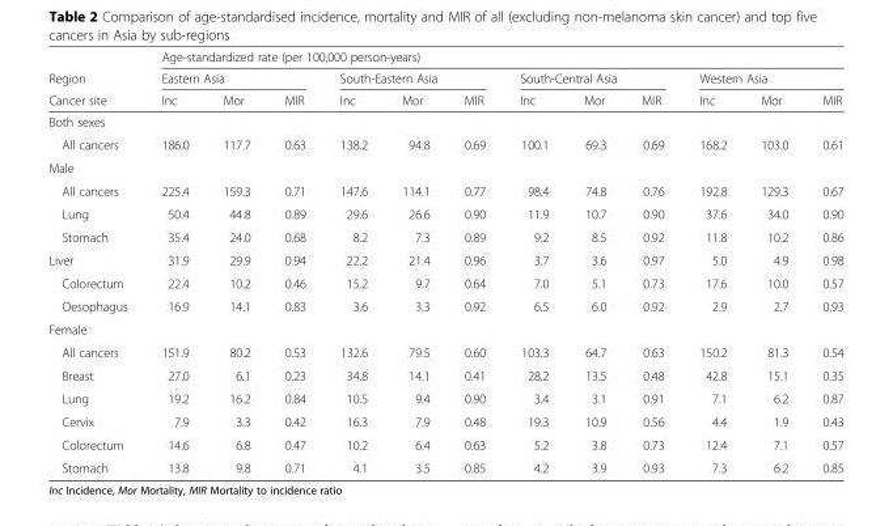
<table><thead><tr><td rowspan="3">Region Cancer site</td><td colspan="12">Age-standardized rate (per 100,000 person-years)</td></tr><tr><td colspan="3">Eastern Asia</td><td colspan="3">South-Eastern Asia</td><td colspan="3">South-Central Asia</td><td colspan="3">Western Asia</td></tr><tr><td>Inc</td><td>Mor</td><td>MIR</td><td>Inc</td><td>Mor</td><td>MIR</td><td>Inc</td><td>Mor</td><td>MIR</td><td>Inc</td><td>Mor</td><td>MIR</td></tr></thead><tbody><tr><td colspan="13">Both sexes</td></tr><tr><td>All cancers</td><td>186.0</td><td>117.7</td><td>0.63</td><td>138.2</td><td>94.8</td><td>0.69</td><td>100.1</td><td>69.3</td><td>0.69</td><td>168.2</td><td>103.0</td><td>0.61</td></tr><tr><td colspan="13">Male</td></tr><tr><td>All cancers</td><td>225.4</td><td>159.3</td><td>0.71</td><td>147.6</td><td>114.1</td><td>0.77</td><td>98.4</td><td>74.8</td><td>0.76</td><td>192.8</td><td>129.3</td><td>0.67</td></tr><tr><td>Lung</td><td>50.4</td><td>44.8</td><td>0.89</td><td>29.6</td><td>26.6</td><td>0.90</td><td>11.9</td><td>10.7</td><td>0.90</td><td>37.6</td><td>34.0</td><td>0.90</td></tr><tr><td>Stomach</td><td>35.4</td><td>24.0</td><td>0.68</td><td>8.2</td><td>7.3</td><td>0.89</td><td>9.2</td><td>8.5</td><td>0.92</td><td>11.8</td><td>10.2</td><td>0.86</td></tr><tr><td>Liver</td><td>31.9</td><td>29.9</td><td>0.94</td><td>22.2</td><td>21.4</td><td>0.96</td><td>3.7</td><td>3.6</td><td>0.97</td><td>5.0</td><td>4.9</td><td>0.98</td></tr><tr><td>Colorectum</td><td>22.4</td><td>10.2</td><td>0.46</td><td>15.2</td><td>9.7</td><td>0.64</td><td>7.0</td><td>5.1</td><td>0.73</td><td>17.6</td><td>10.0</td><td>0.57</td></tr><tr><td>Oesophagus</td><td>16.9</td><td>14.1</td><td>0.83</td><td>3.6</td><td>3.3</td><td>0.92</td><td>6.5</td><td>6.0</td><td>0.92</td><td>2.9</td><td>2.7</td><td>0.93</td></tr><tr><td colspan="13">Female</td></tr><tr><td>All cancers</td><td>151.9</td><td>80.2</td><td>0.53</td><td>132.6</td><td>79.5</td><td>0.60</td><td>103.3</td><td>64.7</td><td>0.63</td><td>150.2</td><td>81.3</td><td>0.54</td></tr><tr><td>Breast</td><td>27.0</td><td>6.1</td><td>0.23</td><td>34.8</td><td>14.1</td><td>0.41</td><td>28.2</td><td>13.5</td><td>0.48</td><td>42.8</td><td>15.1</td><td>0.35</td></tr><tr><td>Lung</td><td>19.2</td><td>16.2</td><td>0.84</td><td>10.5</td><td>9.4</td><td>0.90</td><td>3.4</td><td>3.1</td><td>0.91</td><td>7.1</td><td>6.2</td><td>0.87</td></tr><tr><td>Cervix</td><td>7.9</td><td>3.3</td><td>0.42</td><td>16.3</td><td>7.9</td><td>0.48</td><td>19.3</td><td>10.9</td><td>0.56</td><td>4.4</td><td>1.9</td><td>0.43</td></tr><tr><td>Colorectum</td><td>14.6</td><td>6.8</td><td>0.47</td><td>10.2</td><td>6.4</td><td>0.63</td><td>5.2</td><td>3.8</td><td>0.73</td><td>12.4</td><td>7.1</td><td>0.57</td></tr><tr><td>Stomach</td><td>13.8</td><td>9.8</td><td>0.71</td><td>4.1</td><td>3.5</td><td>0.85</td><td>4.2</td><td>3.9</td><td>0.93</td><td>7.3</td><td>6.2</td><td>0.85</td></tr></tbody></table>